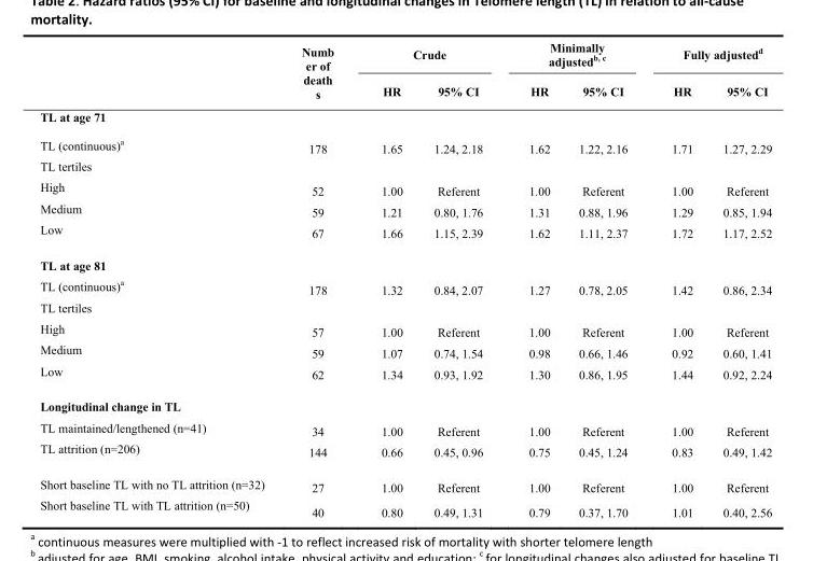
<table><thead><tr><td rowspan="2"></td><td rowspan="2">Numb er of death s</td><td colspan="2">Crude</td><td colspan="2">Minimally adjusted<sup>b, c</sup></td><td colspan="2">Fully adjusted<sup>d</sup></td></tr><tr><td>HR</td><td>95% CI</td><td>HR</td><td>95% CI</td><td>HR</td><td>95% CI</td></tr></thead><tbody><tr><td colspan="8">TL at age 71</td></tr><tr><td>TL (continuous)<sup>a</sup></td><td>178</td><td>1.65</td><td>1.24, 2.18</td><td>1.62</td><td>1.22, 2.16</td><td>1.71</td><td>1.27, 2.29</td></tr><tr><td colspan="8">TL tertiles</td></tr><tr><td>High</td><td>52</td><td>1.00</td><td>Referent</td><td>1.00</td><td>Referent</td><td>1.00</td><td>Referent</td></tr><tr><td>Medium</td><td>59</td><td>1.21</td><td>0.80, 1.76</td><td>1.31</td><td>0.88, 1.96</td><td>1.29</td><td>0.85, 1.94</td></tr><tr><td>Low</td><td>67</td><td>1.66</td><td>1.15, 2.39</td><td>1.62</td><td>1.11, 2.37</td><td>1.72</td><td>1.17, 2.52</td></tr><tr><td colspan="8">TL at age 81</td></tr><tr><td>TL (continuous)<sup>a</sup></td><td>178</td><td>1.32</td><td>0.84, 2.07</td><td>1.27</td><td>0.78, 2.05</td><td>1.42</td><td>0.86, 2.34</td></tr><tr><td colspan="8">TL tertiles</td></tr><tr><td>High</td><td>57</td><td>1.00</td><td>Referent</td><td>1.00</td><td>Referent</td><td>1.00</td><td>Referent</td></tr><tr><td>Medium</td><td>59</td><td>1.07</td><td>0.74, 1.54</td><td>0.98</td><td>0.66, 1.46</td><td>0.92</td><td>0.60, 1.41</td></tr><tr><td>Low</td><td>62</td><td>1.34</td><td>0.93, 1.92</td><td>1.30</td><td>0.86, 1.95</td><td>1.44</td><td>0.92, 2.24</td></tr><tr><td colspan="8">Longitudinal change in TL</td></tr><tr><td>TL maintained/lengthened (n=41)</td><td>34</td><td>1.00</td><td>Referent</td><td>1.00</td><td>Referent</td><td>1.00</td><td>Referent</td></tr><tr><td>TL attrition (n=206)</td><td>144</td><td>0.66</td><td>0.45, 0.96</td><td>0.75</td><td>0.45, 1.24</td><td>0.83</td><td>0.49, 1.42</td></tr><tr><td>Short baseline TL with no TL attrition (n=32)</td><td>27</td><td>1.00</td><td>Referent</td><td>1.00</td><td>Referent</td><td>1.00</td><td>Referent</td></tr><tr><td>Short baseline TL with TL attrition (n=50)</td><td>40</td><td>0.80</td><td>0.49, 1.31</td><td>0.79</td><td>0.37, 1.70</td><td>1.01</td><td>0.40, 2.56</td></tr></tbody></table>